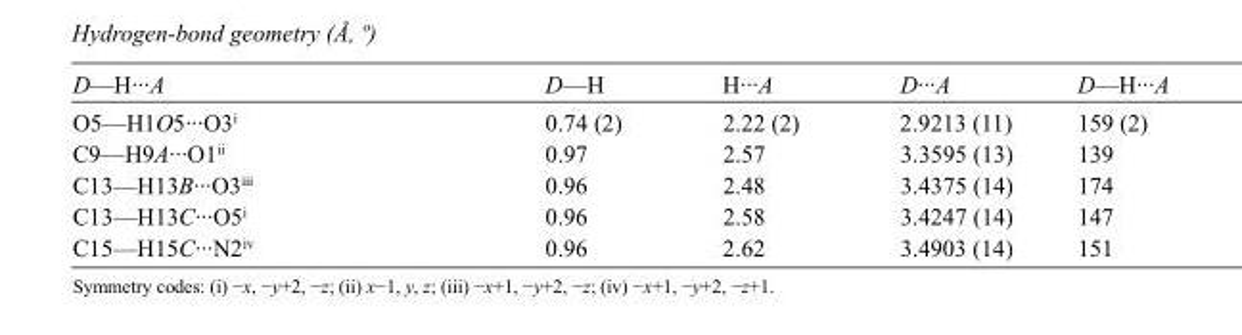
<table><tbody><tr><td>D—H···A</td><td>D—H</td><td>H···A</td><td>D···A</td><td>D—H···A</td></tr><tr><td>O5—H1O5···O3<sup>i</sup></td><td>0.74 (2)</td><td>2.22 (2)</td><td>2.9213 (11)</td><td>159 (2)</td></tr><tr><td>C9—H9A···O1<sup>ii</sup></td><td>0.97</td><td>2.57</td><td>3.3595 (13)</td><td>139</td></tr><tr><td>C13—H13B···O3<sup>iii</sup></td><td>0.96</td><td>2.48</td><td>3.4375 (14)</td><td>174</td></tr><tr><td>C13—H13C···O5<sup>i</sup></td><td>0.96</td><td>2.58</td><td>3.4247 (14)</td><td>147</td></tr><tr><td>C15—H15C···N2<sup>iv</sup></td><td>0.96</td><td>2.62</td><td>3.4903 (14)</td><td>151</td></tr></tbody></table>